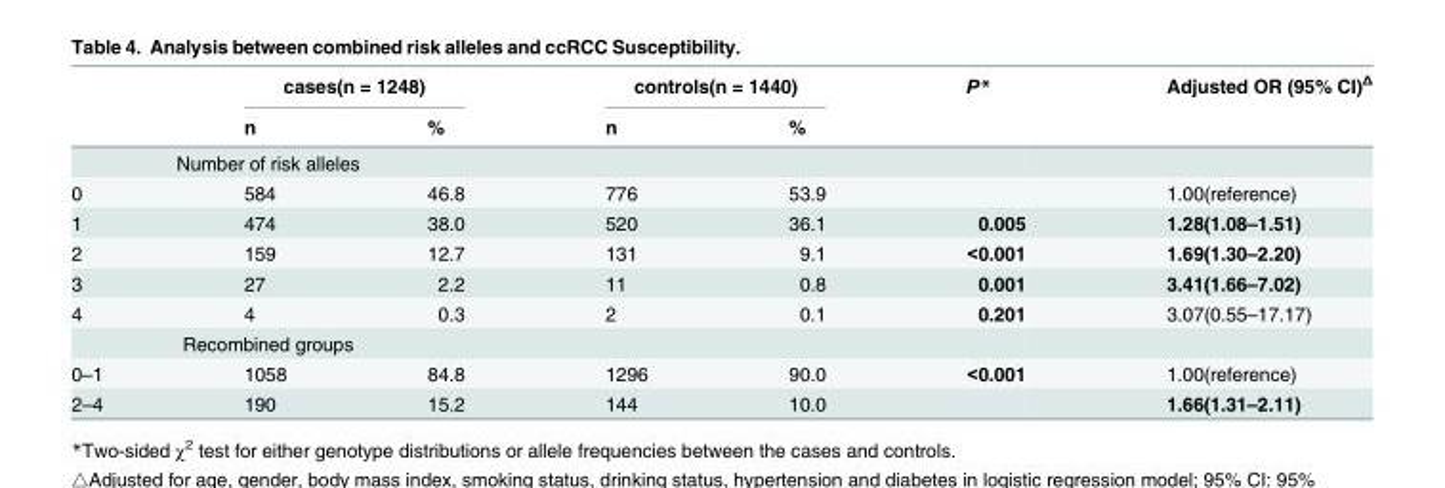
<table><thead><tr><td rowspan="2"></td><td colspan="2">cases(n = 1248)</td><td colspan="2">controls(n = 1440)</td><td rowspan="2">P*</td><td rowspan="2">Adjusted OR (95% CI)Δ</td></tr><tr><td>n</td><td>%</td><td>n</td><td>%</td></tr></thead><tbody><tr><td colspan="7">Number of risk alleles</td></tr><tr><td>0</td><td>584</td><td>46.8</td><td>776</td><td>53.9</td><td></td><td>1.00(reference)</td></tr><tr><td>1</td><td>474</td><td>38.0</td><td>520</td><td>36.1</td><td>0.005</td><td>1.28(1.08–1.51)</td></tr><tr><td>2</td><td>159</td><td>12.7</td><td>131</td><td>9.1</td><td>&lt;0.001</td><td>1.69(1.30–2.20)</td></tr><tr><td>3</td><td>27</td><td>2.2</td><td>11</td><td>0.8</td><td>0.001</td><td>3.41(1.66–7.02)</td></tr><tr><td>4</td><td>4</td><td>0.3</td><td>2</td><td>0.1</td><td>0.201</td><td>3.07(0.55–17.17)</td></tr><tr><td colspan="7">Recombined groups</td></tr><tr><td>0–1</td><td>1058</td><td>84.8</td><td>1296</td><td>90.0</td><td>&lt;0.001</td><td>1.00(reference)</td></tr><tr><td>2–4</td><td>190</td><td>15.2</td><td>144</td><td>10.0</td><td></td><td>1.66(1.31–2.11)</td></tr></tbody></table>